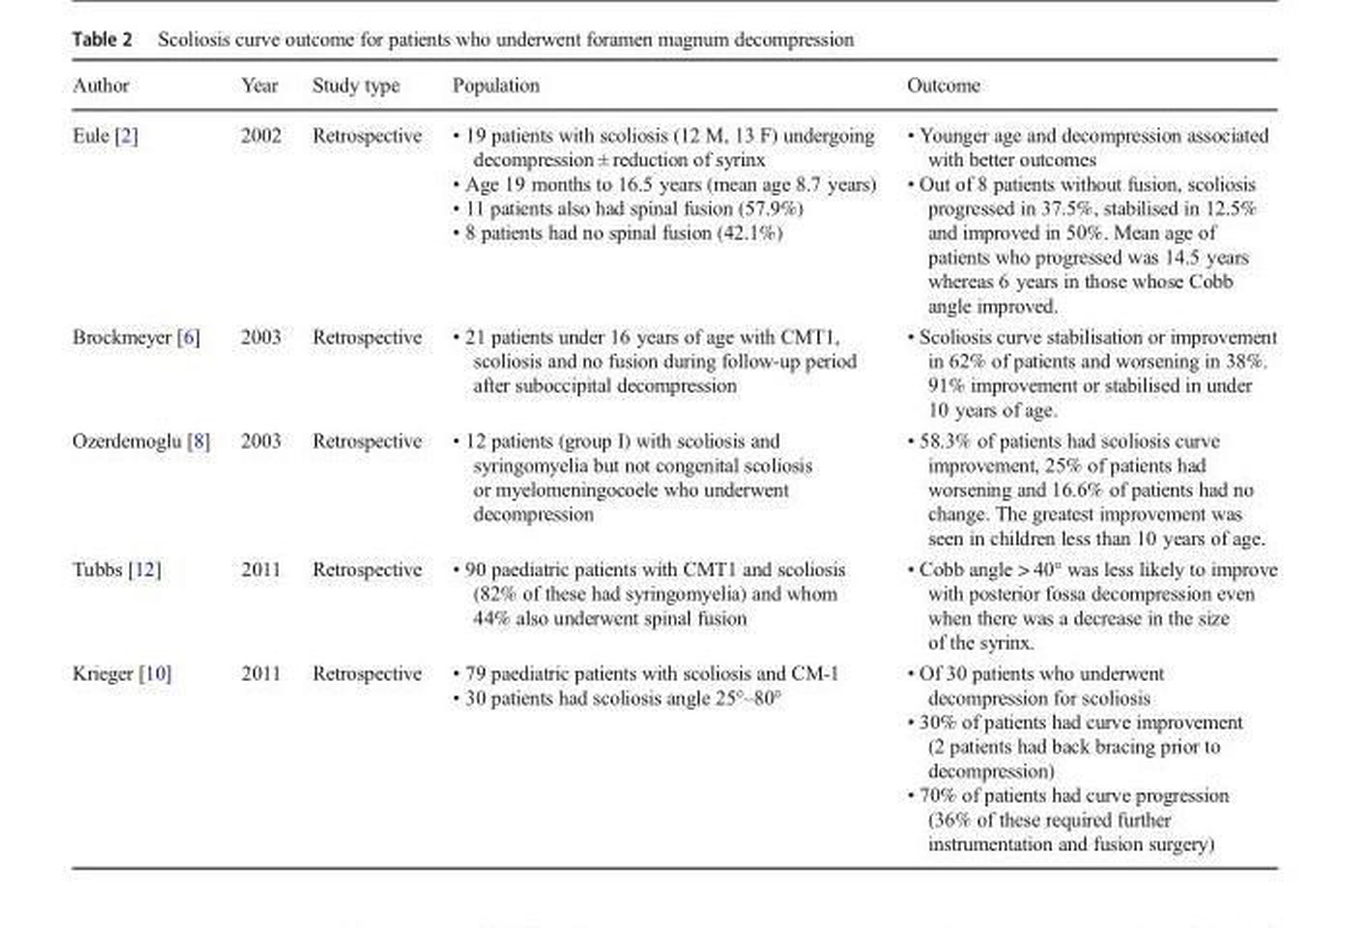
<table><thead><tr><td>Author</td><td>Year</td><td>Study type</td><td>Population</td><td>Outcome</td></tr></thead><tbody><tr><td>Eule [2]</td><td>2002</td><td>Retrospective</td><td>• 19 patients with scoliosis (12 M, 13 F) undergoing decompression ± reduction of syrinx • Age 19 months to 16.5 years (mean age 8.7 years) • 11 patients also had spinal fusion (57.9%) • 8 patients had no spinal fusion (42.1%)</td><td>• Younger age and decompression associated with better outcomes • Out of 8 patients without fusion, scoliosis progressed in 37.5%, stabilised in 12.5% and improved in 50%. Mean age of patients who progressed was 14.5 years whereas 6 years in those whose Cobb angle improved.</td></tr><tr><td>Brockmeyer [6]</td><td>2003</td><td>Retrospective</td><td>• 21 patients under 16 years of age with CMT1, scoliosis and no fusion during follow-up period after suboccipital decompression</td><td>• Scoliosis curve stabilisation or improvement in 62% of patients and worsening in 38%. 91% improvement or stabilised in under 10 years of age.</td></tr><tr><td>Ozerdemoglu [8]</td><td>2003</td><td>Retrospective</td><td>• 12 patients (group I) with scoliosis and syringomyelia but not congenital scoliosis or myelomeningocoele who underwent decompression</td><td>• 58.3% of patients had scoliosis curve improvement, 25% of patients had worsening and 16.6% of patients had no change. The greatest improvement was seen in children less than 10 years of age.</td></tr><tr><td>Tubbs [12]</td><td>2011</td><td>Retrospective</td><td>• 90 paediatric patients with CMT1 and scoliosis (82% of these had syringomyelia) and whom 44% also underwent spinal fusion</td><td>• Cobb angle &gt; 40° was less likely to improve with posterior fossa decompression even when there was a decrease in the size of the syrinx.</td></tr><tr><td>Krieger [10]</td><td>2011</td><td>Retrospective</td><td>• 79 paediatric patients with scoliosis and CM-1 • 30 patients had scoliosis angle 25°–80°</td><td>• Of 30 patients who underwent decompression for scoliosis • 30% of patients had curve improvement (2 patients had back bracing prior to decompression) • 70% of patients had curve progression (36% of these required further instrumentation and fusion surgery)</td></tr></tbody></table>